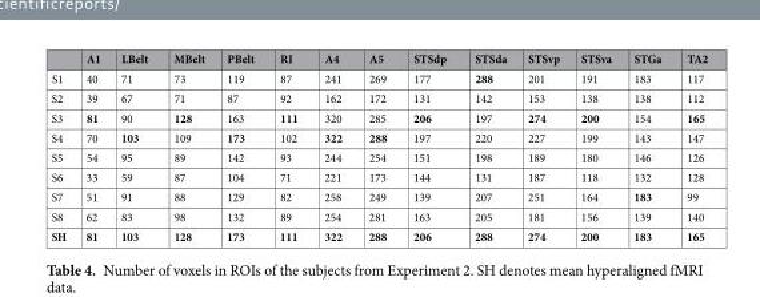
<table><thead><tr><td></td><td>A1</td><td>LBelt</td><td>MBelt</td><td>PBelt</td><td>RI</td><td>A4</td><td>A5</td><td>STSdp</td><td>STSda</td><td>STSvp</td><td>STSva</td><td>STGa</td><td>TA2</td></tr></thead><tbody><tr><td>S1</td><td>40</td><td>71</td><td>73</td><td>119</td><td>87</td><td>241</td><td>269</td><td>177</td><td>288</td><td>201</td><td>191</td><td>183</td><td>117</td></tr><tr><td>S2</td><td>39</td><td>67</td><td>71</td><td>87</td><td>92</td><td>162</td><td>172</td><td>131</td><td>142</td><td>153</td><td>138</td><td>138</td><td>112</td></tr><tr><td>S3</td><td>81</td><td>90</td><td>128</td><td>163</td><td>111</td><td>320</td><td>285</td><td>206</td><td>197</td><td>274</td><td>200</td><td>154</td><td>165</td></tr><tr><td>S4</td><td>70</td><td>103</td><td>109</td><td>173</td><td>102</td><td>322</td><td>288</td><td>197</td><td>220</td><td>227</td><td>199</td><td>143</td><td>147</td></tr><tr><td>S5</td><td>54</td><td>95</td><td>89</td><td>142</td><td>93</td><td>244</td><td>254</td><td>151</td><td>198</td><td>189</td><td>180</td><td>146</td><td>126</td></tr><tr><td>S6</td><td>33</td><td>59</td><td>87</td><td>104</td><td>71</td><td>221</td><td>173</td><td>144</td><td>131</td><td>187</td><td>118</td><td>132</td><td>128</td></tr><tr><td>S7</td><td>51</td><td>91</td><td>88</td><td>129</td><td>82</td><td>258</td><td>249</td><td>139</td><td>207</td><td>251</td><td>164</td><td>183</td><td>99</td></tr><tr><td>S8</td><td>62</td><td>83</td><td>98</td><td>132</td><td>89</td><td>254</td><td>281</td><td>163</td><td>205</td><td>181</td><td>156</td><td>139</td><td>140</td></tr><tr><td>SH</td><td>81</td><td>103</td><td>128</td><td>173</td><td>111</td><td>322</td><td>288</td><td>206</td><td>288</td><td>274</td><td>200</td><td>183</td><td>165</td></tr></tbody></table>